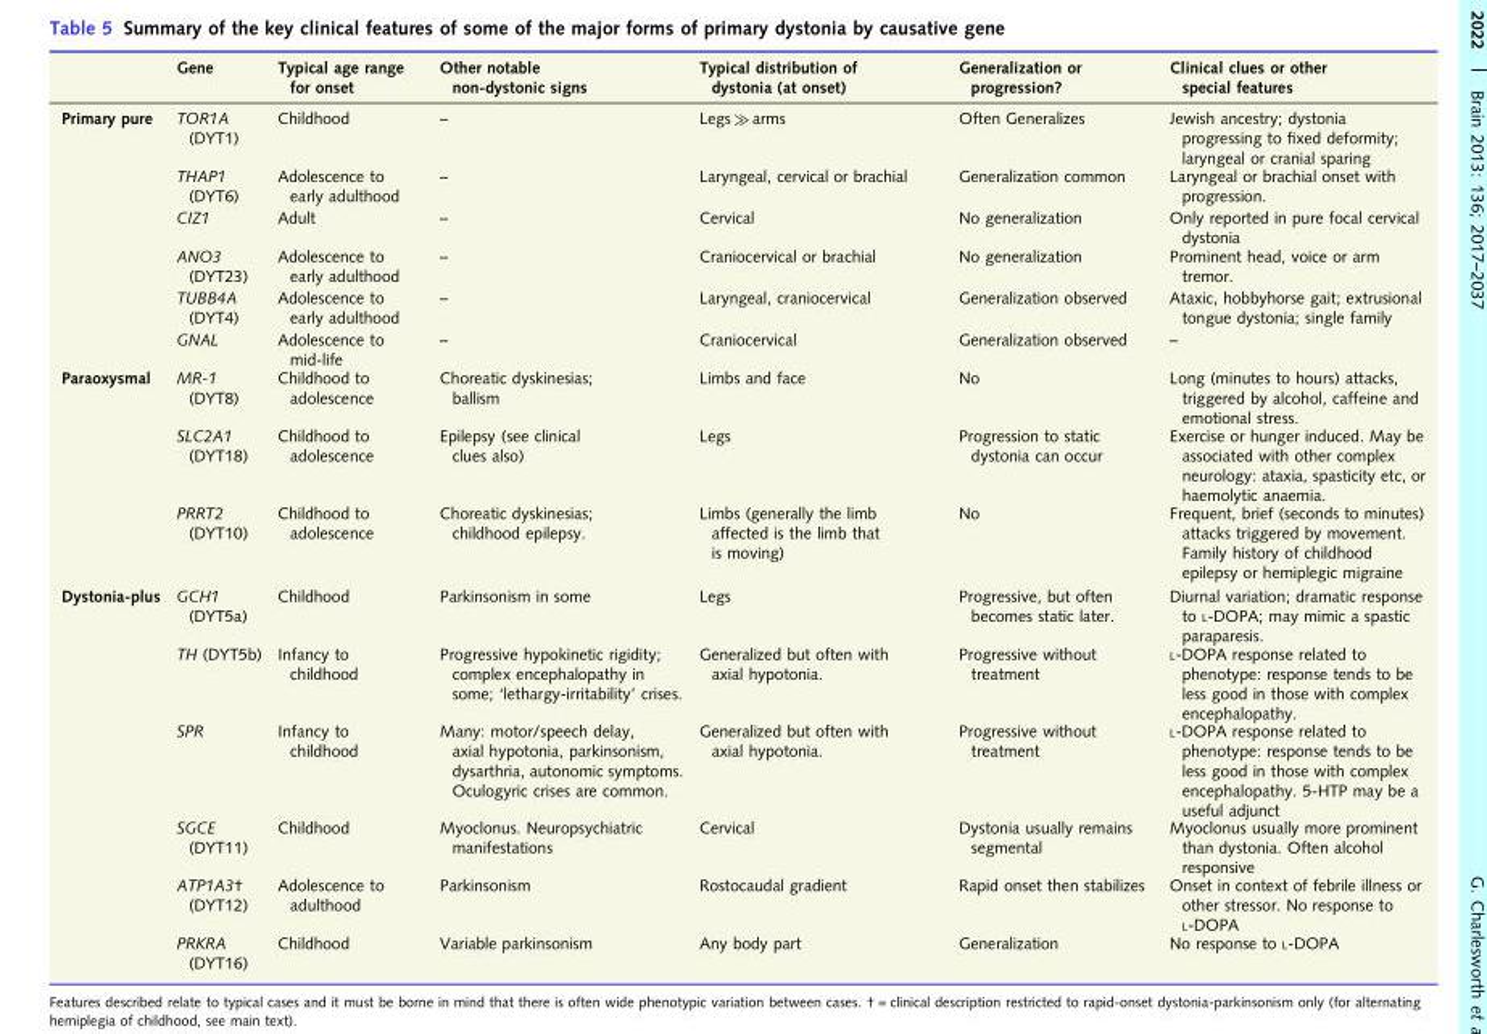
<table><thead><tr><td></td><td>Gene</td><td>Typical age range for onset</td><td>Other notable non-dystonic signs</td><td>Typical distribution of dystonia (at onset)</td><td>Generalization or progression?</td><td>Clinical clues or other special features</td></tr></thead><tbody><tr><td rowspan="6">Primary pure</td><td>TOR1A (DYT1)</td><td>Childhood</td><td>–</td><td>Legs ≫ arms</td><td>Often Generalizes</td><td>Jewish ancestry; dystonia progressing to fixed deformity; laryngeal or cranial sparing</td></tr><tr><td>THAP1 (DYT6)</td><td>Adolescence to early adulthood</td><td>–</td><td>Laryngeal, cervical or brachial</td><td>Generalization common</td><td>Laryngeal or brachial onset with progression.</td></tr><tr><td>CIZ1</td><td>Adult</td><td>–</td><td>Cervical</td><td>No generalization</td><td>Only reported in pure focal cervical dystonia</td></tr><tr><td>ANO3 (DYT23)</td><td>Adolescence to early adulthood</td><td>–</td><td>Craniocervical or brachial</td><td>No generalization</td><td>Prominent head, voice or arm tremor.</td></tr><tr><td>TUBB4A (DYT4)</td><td>Adolescence to early adulthood</td><td>–</td><td>Laryngeal, craniocervical</td><td>Generalization observed</td><td>Ataxic, hobbyhorse gait; extrusional tongue dystonia; single family</td></tr><tr><td>GNAL</td><td>Adolescence to mid-life</td><td>–</td><td>Craniocervical</td><td>Generalization observed</td><td>–</td></tr><tr><td rowspan="3">Paraoxysmal</td><td>MR-1 (DYT8)</td><td>Childhood to adolescence</td><td>Choreatic dyskinesias; ballism</td><td>Limbs and face</td><td>No</td><td>Long (minutes to hours) attacks, triggered by alcohol, caffeine and emotional stress.</td></tr><tr><td>SLC2A1 (DYT18)</td><td>Childhood to adolescence</td><td>Epilepsy (see clinical clues also)</td><td>Legs</td><td>Progression to static dystonia can occur</td><td>Exercise or hunger induced. May be associated with other complex neurology: ataxia, spasticity etc, or haemolytic anaemia.</td></tr><tr><td>PRRT2 (DYT10)</td><td>Childhood to adolescence</td><td>Choreatic dyskinesias; childhood epilepsy.</td><td>Limbs (generally the limb affected is the limb that is moving)</td><td>No</td><td>Frequent, brief (seconds to minutes) attacks triggered by movement. Family history of childhood epilepsy or hemiplegic migraine</td></tr><tr><td rowspan="6">Dystonia-plus</td><td>GCH1 (DYT5a)</td><td>Childhood</td><td>Parkinsonism in some</td><td>Legs</td><td>Progressive, but often becomes static later.</td><td>Diurnal variation; dramatic response to L-DOPA; may mimic a spastic paraparesis.</td></tr><tr><td>TH (DYT5b)</td><td>Infancy to childhood</td><td>Progressive hypokinetic rigidity; complex encephalopathy in some; ‘lethargy-irritability’ crises.</td><td>Generalized but often with axial hypotonia.</td><td>Progressive without treatment</td><td>L-DOPA response related to phenotype: response tends to be less good in those with complex encephalopathy.</td></tr><tr><td>SPR</td><td>Infancy to childhood</td><td>Many: motor/speech delay, axial hypotonia, parkinsonism, dysarthria, autonomic symptoms. Oculogyric crises are common.</td><td>Generalized but often with axial hypotonia.</td><td>Progressive without treatment</td><td>L-DOPA response related to phenotype: response tends to be less good in those with complex encephalopathy. 5-HTP may be a useful adjunct</td></tr><tr><td>SGCE (DYT11)</td><td>Childhood</td><td>Myoclonus. Neuropsychiatric manifestations</td><td>Cervical</td><td>Dystonia usually remains segmental</td><td>Myoclonus usually more prominent than dystonia. Often alcohol responsive</td></tr><tr><td>ATP1A3† (DYT12)</td><td>Adolescence to adulthood</td><td>Parkinsonism</td><td>Rostocaudal gradient</td><td>Rapid onset then stabilizes</td><td>Onset in context of febrile illness or other stressor. No response to L-DOPA</td></tr><tr><td>PRKRA (DYT16)</td><td>Childhood</td><td>Variable parkinsonism</td><td>Any body part</td><td>Generalization</td><td>No response to L-DOPA</td></tr></tbody></table>